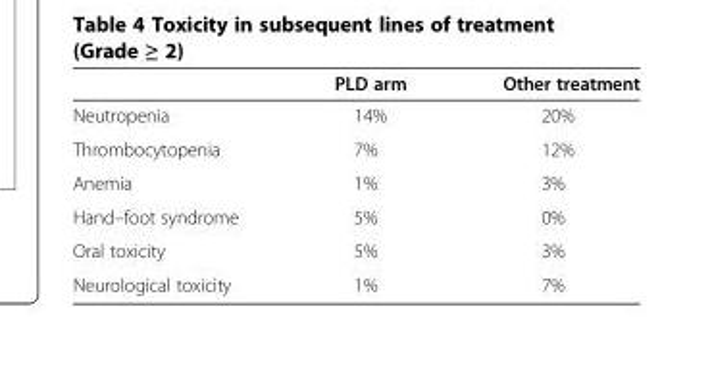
<table><thead><tr><td></td><td>PLD arm</td><td>Other treatment</td></tr></thead><tbody><tr><td>Neutropenia</td><td>14%</td><td>20%</td></tr><tr><td>Thrombocytopenia</td><td>7%</td><td>12%</td></tr><tr><td>Anemia</td><td>1%</td><td>3%</td></tr><tr><td>Hand–foot syndrome</td><td>5%</td><td>0%</td></tr><tr><td>Oral toxicity</td><td>5%</td><td>3%</td></tr><tr><td>Neurological toxicity</td><td>1%</td><td>7%</td></tr></tbody></table>